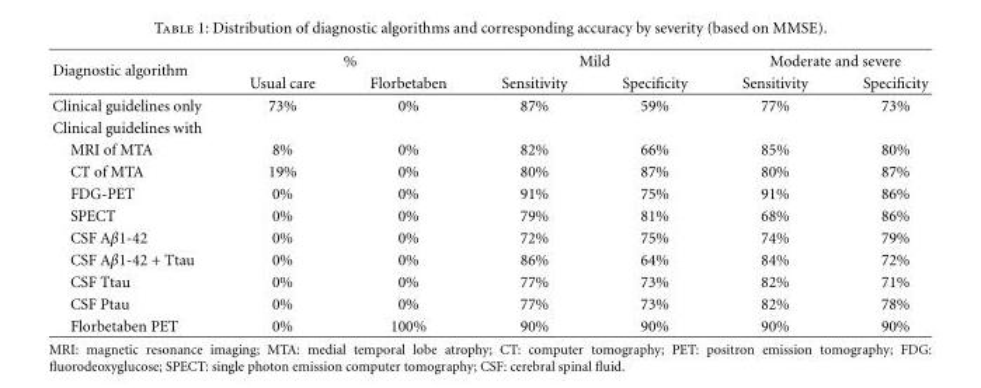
<table><thead><tr><td rowspan="2">Diagnostic algorithm</td><td colspan="2">%</td><td colspan="2">Mild</td><td colspan="2">Moderate and severe</td></tr><tr><td>Usual care</td><td>Florbetaben</td><td>Sensitivity</td><td>Specificity</td><td>Sensitivity</td><td>Specificity</td></tr></thead><tbody><tr><td>Clinical guidelines only</td><td>73%</td><td>0%</td><td>87%</td><td>59%</td><td>77%</td><td>73%</td></tr><tr><td colspan="7">Clinical guidelines with</td></tr><tr><td>MRI of MTA</td><td>8%</td><td>0%</td><td>82%</td><td>66%</td><td>85%</td><td>80%</td></tr><tr><td>CT of MTA</td><td>19%</td><td>0%</td><td>80%</td><td>87%</td><td>80%</td><td>87%</td></tr><tr><td>FDG-PET</td><td>0%</td><td>0%</td><td>91%</td><td>75%</td><td>91%</td><td>86%</td></tr><tr><td>SPECT</td><td>0%</td><td>0%</td><td>79%</td><td>81%</td><td>68%</td><td>86%</td></tr><tr><td>CSF Aβ1-42</td><td>0%</td><td>0%</td><td>72%</td><td>75%</td><td>74%</td><td>79%</td></tr><tr><td>CSF Aβ1-42 + Ttau</td><td>0%</td><td>0%</td><td>86%</td><td>64%</td><td>84%</td><td>72%</td></tr><tr><td>CSF Ttau</td><td>0%</td><td>0%</td><td>77%</td><td>73%</td><td>82%</td><td>71%</td></tr><tr><td>CSF Ptau</td><td>0%</td><td>0%</td><td>77%</td><td>73%</td><td>82%</td><td>78%</td></tr><tr><td>Florbetaben PET</td><td>0%</td><td>100%</td><td>90%</td><td>90%</td><td>90%</td><td>90%</td></tr></tbody></table>